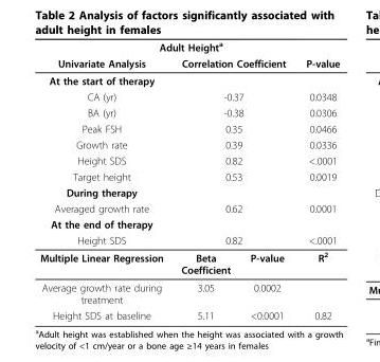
<table><thead><tr><td colspan="4">Adult Height<sup>a</sup></td></tr><tr><td rowspan="2">Univariate Analysis At the start of therapy</td><td colspan="2">Correlation Coefficient</td><td rowspan="2">P-value</td></tr><tr><td></td><td></td></tr></thead><tbody><tr><td>CA (yr)</td><td colspan="2">-0.37</td><td>0.0348</td></tr><tr><td>BA (yr)</td><td colspan="2">-0.38</td><td>0.0306</td></tr><tr><td>Peak FSH</td><td colspan="2">0.35</td><td>0.0466</td></tr><tr><td>Growth rate</td><td colspan="2">0.39</td><td>0.0336</td></tr><tr><td>Height SDS</td><td colspan="2">0.82</td><td>&lt;.0001</td></tr><tr><td>Target height</td><td colspan="2">0.53</td><td>0.0019</td></tr><tr><td colspan="4">During therapy</td></tr><tr><td>Averaged growth rate</td><td colspan="2">0.62</td><td>0.0001</td></tr><tr><td colspan="4">At the end of therapy</td></tr><tr><td>Height SDS</td><td colspan="2">0.82</td><td>&lt;.0001</td></tr><tr><td>Multiple Linear Regression</td><td>Beta Coefficient</td><td>P-value</td><td>R<sup>2</sup></td></tr><tr><td>Average growth rate during treatment</td><td>3.05</td><td>0.0002</td><td></td></tr><tr><td>Height SDS at baseline</td><td>5.11</td><td>&lt;0.0001</td><td>0.82</td></tr></tbody></table>